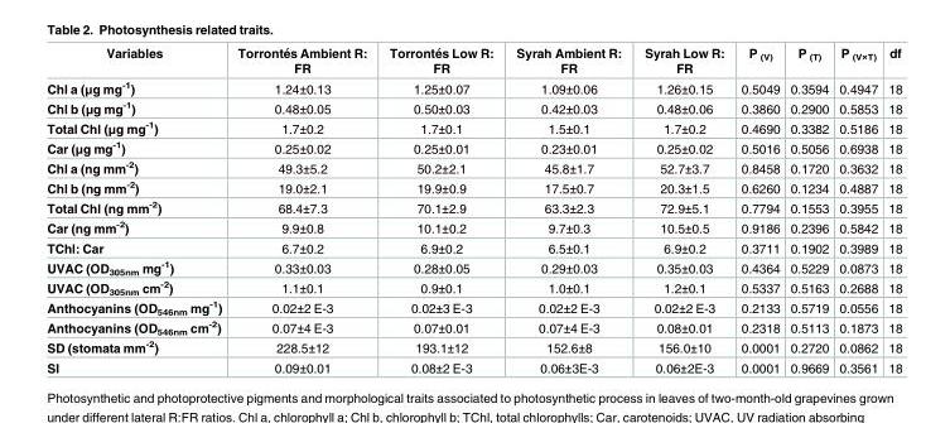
<table><thead><tr><td>Variables</td><td>Torronte´s Ambient R: FR</td><td>Torronte´s Low R: FR</td><td>Syrah Ambient R: FR</td><td>Syrah Low R: FR</td><td>P <sub>(V)</sub></td><td>P <sub>(T)</sub></td><td>P <sub>(V×T)</sub></td><td>df</td></tr></thead><tbody><tr><td>Chl a (μg mg<sup>-1</sup>)</td><td>1.24±0.13</td><td>1.25±0.07</td><td>1.09±0.06</td><td>1.26±0.15</td><td>0.5049</td><td>0.3594</td><td>0.4947</td><td>18</td></tr><tr><td>Chl b (μg mg<sup>-1</sup>)</td><td>0.48±0.05</td><td>0.50±0.03</td><td>0.42±0.03</td><td>0.48±0.06</td><td>0.3860</td><td>0.2900</td><td>0.5853</td><td>18</td></tr><tr><td>Total Chl (μg mg<sup>-1</sup>)</td><td>1.7±0.2</td><td>1.7±0.1</td><td>1.5±0.1</td><td>1.7±0.2</td><td>0.4690</td><td>0.3382</td><td>0.5186</td><td>18</td></tr><tr><td>Car (μg mg<sup>-1</sup>)</td><td>0.25±0.02</td><td>0.25±0.01</td><td>0.23±0.01</td><td>0.25±0.02</td><td>0.5016</td><td>0.5056</td><td>0.6938</td><td>18</td></tr><tr><td>Chl a (ng mm<sup>-2</sup>)</td><td>49.3±5.2</td><td>50.2±2.1</td><td>45.8±1.7</td><td>52.7±3.7</td><td>0.8458</td><td>0.1720</td><td>0.3632</td><td>18</td></tr><tr><td>Chl b (ng mm<sup>-2</sup>)</td><td>19.0±2.1</td><td>19.9±0.9</td><td>17.5±0.7</td><td>20.3±1.5</td><td>0.6260</td><td>0.1234</td><td>0.4887</td><td>18</td></tr><tr><td>Total Chl (ng mm<sup>-2</sup>)</td><td>68.4±7.3</td><td>70.1±2.9</td><td>63.3±2.3</td><td>72.9±5.1</td><td>0.7794</td><td>0.1553</td><td>0.3955</td><td>18</td></tr><tr><td>Car (ng mm<sup>-2</sup>)</td><td>9.9±0.8</td><td>10.1±0.2</td><td>9.7±0.3</td><td>10.5±0.5</td><td>0.9186</td><td>0.2396</td><td>0.5842</td><td>18</td></tr><tr><td>TChl: Car</td><td>6.7±0.2</td><td>6.9±0.2</td><td>6.5±0.1</td><td>6.9±0.2</td><td>0.3711</td><td>0.1902</td><td>0.3989</td><td>18</td></tr><tr><td>UVAC (OD<sub>305nm</sub> mg<sup>-1</sup>)</td><td>0.33±0.03</td><td>0.28±0.05</td><td>0.29±0.03</td><td>0.35±0.03</td><td>0.4364</td><td>0.5229</td><td>0.0873</td><td>18</td></tr><tr><td>UVAC (OD<sub>305nm</sub> cm<sup>-2</sup>)</td><td>1.1±0.1</td><td>0.9±0.1</td><td>1.0±0.1</td><td>1.2±0.1</td><td>0.5337</td><td>0.5163</td><td>0.2688</td><td>18</td></tr><tr><td>Anthocyanins (OD<sub>546nm</sub> mg<sup>-1</sup>)</td><td>0.02±2 E-3</td><td>0.02±3 E-3</td><td>0.02±2 E-3</td><td>0.02±2 E-3</td><td>0.2133</td><td>0.5719</td><td>0.0556</td><td>18</td></tr><tr><td>Anthocyanins (OD<sub>546nm</sub> cm<sup>-2</sup>)</td><td>0.07±4 E-3</td><td>0.07±0.01</td><td>0.07±4 E-3</td><td>0.08±0.01</td><td>0.2318</td><td>0.5113</td><td>0.1873</td><td>18</td></tr><tr><td>SD (stomata mm<sup>-2</sup>)</td><td>228.5±12</td><td>193.1±12</td><td>152.6±8</td><td>156.0±10</td><td>0.0001</td><td>0.2720</td><td>0.0862</td><td>18</td></tr><tr><td>SI</td><td>0.09±0.01</td><td>0.08±2 E-3</td><td>0.06±3E-3</td><td>0.06±2E-3</td><td>0.0001</td><td>0.9669</td><td>0.3561</td><td>18</td></tr></tbody></table>